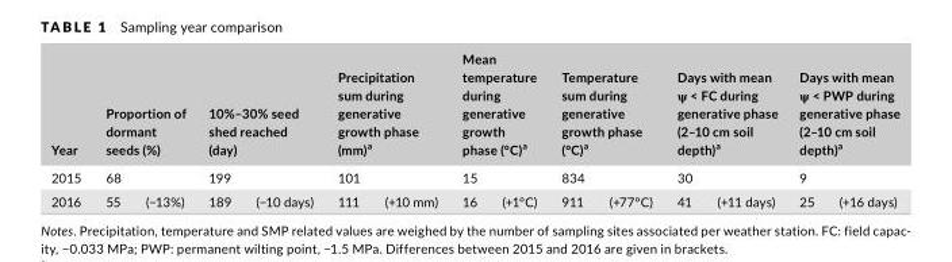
<table><thead><tr><td rowspan="2">Year 2015</td><td colspan="2">Proportion of dormant seeds (%)</td><td colspan="2">10%–30% seed shed reached (day)</td><td colspan="2">Precipitation sum during generative growth phase (mm)<sup>a</sup></td><td colspan="2">Mean temperature during generative growth phase (°C)<sup>a</sup></td><td colspan="2">Temperature sum during generative growth phase (°C)<sup>a</sup></td><td colspan="2">Days with mean ψ &lt; FC during generative phase (2–10 cm soil depth)<sup>a</sup></td><td colspan="2">Days with mean ψ &lt; PWP during generative phase (2–10 cm soil depth)<sup>a</sup></td></tr><tr><td>68</td><td></td><td>199</td><td></td><td>101</td><td></td><td>15</td><td></td><td>834</td><td></td><td>30</td><td></td><td>9</td><td></td></tr></thead><tbody><tr><td>2016</td><td>55</td><td>(−13%)</td><td>189</td><td>(−10 days)</td><td>111</td><td>(+10 mm)</td><td>16</td><td>(+1°C)</td><td>911</td><td>(+77°C)</td><td>41</td><td>(+11 days)</td><td>25</td><td>(+16 days)</td></tr></tbody></table>